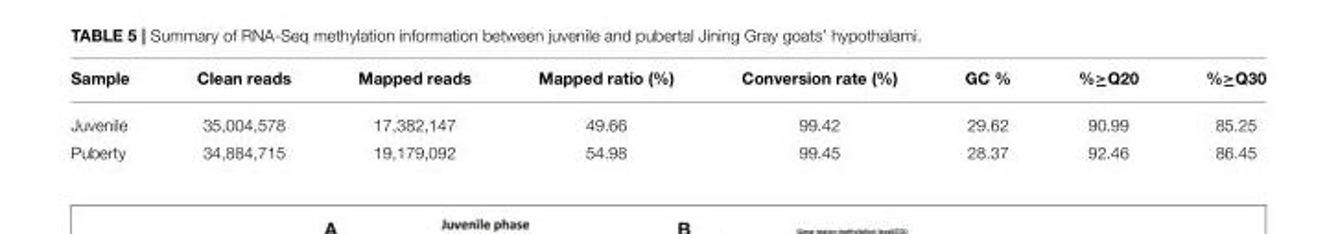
<table><thead><tr><td>Sample</td><td>Clean reads</td><td>Mapped reads</td><td>Mapped ratio (%)</td><td>Conversion rate (%)</td><td>GC %</td><td>%≥Q20</td><td>%≥Q30</td></tr></thead><tbody><tr><td>Juvenile</td><td>35,004,578</td><td>17,382,147</td><td>49.66</td><td>99.42</td><td>29.62</td><td>90.99</td><td>85.25</td></tr><tr><td>Puberty</td><td>34,884,715</td><td>19,179,092</td><td>54.98</td><td>99.45</td><td>28.37</td><td>92.46</td><td>86.45</td></tr></tbody></table>